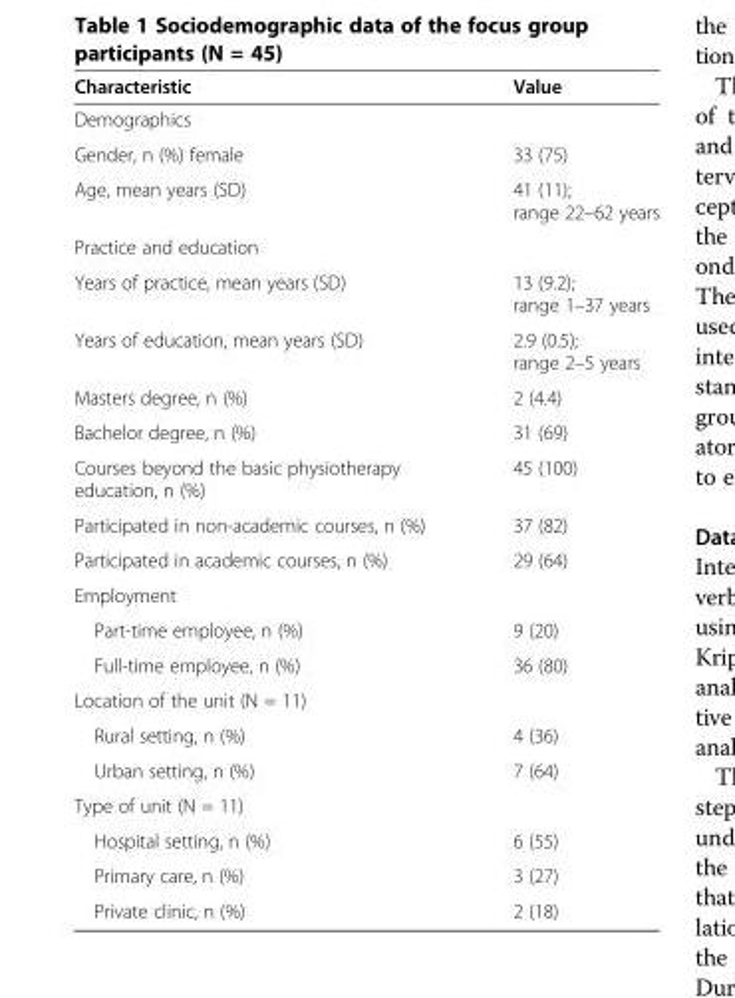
<table><thead><tr><td>Characteristic</td><td>Value</td></tr></thead><tbody><tr><td colspan="2">Demographics</td></tr><tr><td>Gender, n (%) female</td><td>33 (75)</td></tr><tr><td>Age, mean years (SD)</td><td>41 (11); range 22–62 years</td></tr><tr><td colspan="2">Practice and education</td></tr><tr><td>Years of practice, mean years (SD)</td><td>13 (9.2); range 1–37 years</td></tr><tr><td>Years of education, mean years (SD)</td><td>2.9 (0.5); range 2–5 years</td></tr><tr><td>Masters degree, n (%)</td><td>2 (4.4)</td></tr><tr><td>Bachelor degree, n (%)</td><td>31 (69)</td></tr><tr><td>Courses beyond the basic physiotherapy education, n (%)</td><td>45 (100)</td></tr><tr><td>Participated in non-academic courses, n (%)</td><td>37 (82)</td></tr><tr><td>Participated in academic courses, n (%)</td><td>29 (64)</td></tr><tr><td colspan="2">Employment</td></tr><tr><td>Part-time employee, n (%)</td><td>9 (20)</td></tr><tr><td>Full-time employee, n (%)</td><td>36 (80)</td></tr><tr><td colspan="2">Location of the unit (N = 11)</td></tr><tr><td>Rural setting, n (%)</td><td>4 (36)</td></tr><tr><td>Urban setting, n (%)</td><td>7 (64)</td></tr><tr><td colspan="2">Type of unit (N = 11)</td></tr><tr><td>Hospital setting, n (%)</td><td>6 (55)</td></tr><tr><td>Primary care, n (%)</td><td>3 (27)</td></tr><tr><td>Private clinic, n (%)</td><td>2 (18)</td></tr></tbody></table>